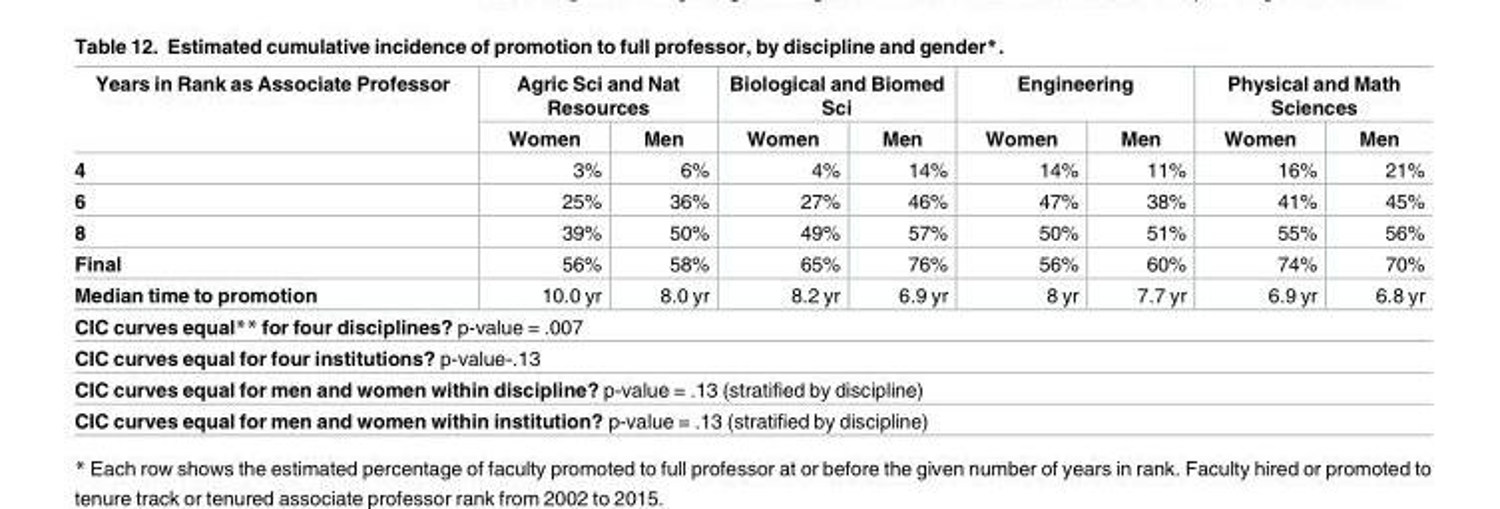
<table><thead><tr><td rowspan="2">Years in Rank as Associate Professor</td><td colspan="2">Agric Sci and Nat Resources</td><td colspan="2">Biological and Biomed Sci</td><td colspan="2">Engineering</td><td colspan="2">Physical and Math Sciences</td></tr><tr><td>Women</td><td>Men</td><td>Women</td><td>Men</td><td>Women</td><td>Men</td><td>Women</td><td>Men</td></tr></thead><tbody><tr><td>4</td><td>3%</td><td>6%</td><td>4%</td><td>14%</td><td>14%</td><td>11%</td><td>16%</td><td>21%</td></tr><tr><td>6</td><td>25%</td><td>36%</td><td>27%</td><td>46%</td><td>47%</td><td>38%</td><td>41%</td><td>45%</td></tr><tr><td>8</td><td>39%</td><td>50%</td><td>49%</td><td>57%</td><td>50%</td><td>51%</td><td>55%</td><td>56%</td></tr><tr><td>Final</td><td>56%</td><td>58%</td><td>65%</td><td>76%</td><td>56%</td><td>60%</td><td>74%</td><td>70%</td></tr><tr><td>Median time to promotion</td><td>10.0 yr</td><td>8.0 yr</td><td>8.2 yr</td><td>6.9 yr</td><td>8 yr</td><td>7.7 yr</td><td>6.9 yr</td><td>6.8 yr</td></tr><tr><td colspan="9">CIC curves equal** for four disciplines? p-value = .007</td></tr><tr><td colspan="9">CIC curves equal for four institutions? p-value-.13</td></tr><tr><td colspan="9">CIC curves equal for men and women within discipline? p-value = .13 (stratified by discipline)</td></tr><tr><td colspan="9">CIC curves equal for men and women within institution? p-value = .13 (stratified by discipline)</td></tr></tbody></table>